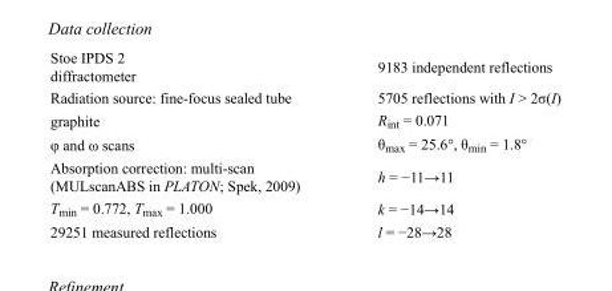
<table><tbody><tr><td>Stoe IPDS 2 diffractometer</td><td>9183 independent reflections</td></tr><tr><td>Radiation source: fine-focus sealed tube</td><td>5705 reflections with I &gt; 2σ(I)</td></tr><tr><td>graphite</td><td>R<sub>int</sub> = 0.071</td></tr><tr><td>φ and ω scans</td><td>θ<sub>max</sub> = 25.6°, θ<sub>min</sub> = 1.8°</td></tr><tr><td>Absorption correction: multi-scan (MULscanABS in PLATON; Spek, 2009)</td><td>h = −11→11</td></tr><tr><td>T<sub>min</sub> = 0.772, T<sub>max</sub> = 1.000</td><td>k = −14→14</td></tr><tr><td>29251 measured reflections</td><td>l = −28→28</td></tr></tbody></table>